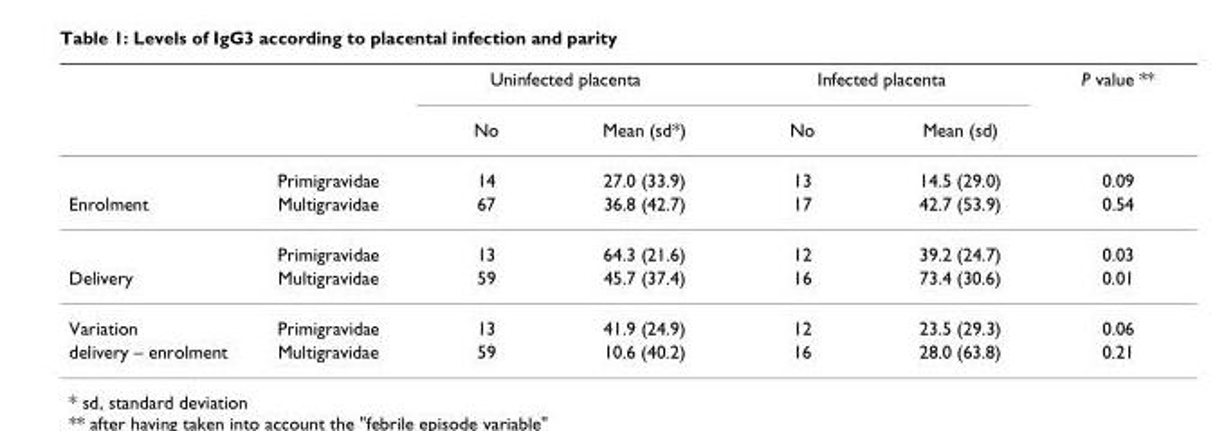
<table><thead><tr><td rowspan="2"></td><td rowspan="2"></td><td colspan="2">Uninfected placenta</td><td colspan="2">Infected placenta</td><td rowspan="2">P value **</td></tr><tr><td>No</td><td>Mean (sd*)</td><td>No</td><td>Mean (sd)</td></tr></thead><tbody><tr><td></td><td>Primigravidae</td><td>14</td><td>27.0 (33.9)</td><td>13</td><td>14.5 (29.0)</td><td>0.09</td></tr><tr><td rowspan="2">Enrolment</td><td>Multigravidae</td><td>67</td><td>36.8 (42.7)</td><td>17</td><td>42.7 (53.9)</td><td>0.54</td></tr><tr><td>Primigravidae</td><td>13</td><td>64.3 (21.6)</td><td>12</td><td>39.2 (24.7)</td><td>0.03</td></tr><tr><td>Delivery</td><td>Multigravidae</td><td>59</td><td>45.7 (37.4)</td><td>16</td><td>73.4 (30.6)</td><td>0.01</td></tr><tr><td>Variation</td><td>Primigravidae</td><td>13</td><td>41.9 (24.9)</td><td>12</td><td>23.5 (29.3)</td><td>0.06</td></tr><tr><td>delivery – enrolment</td><td>Multigravidae</td><td>59</td><td>10.6 (40.2)</td><td>16</td><td>28.0 (63.8)</td><td>0.21</td></tr></tbody></table>